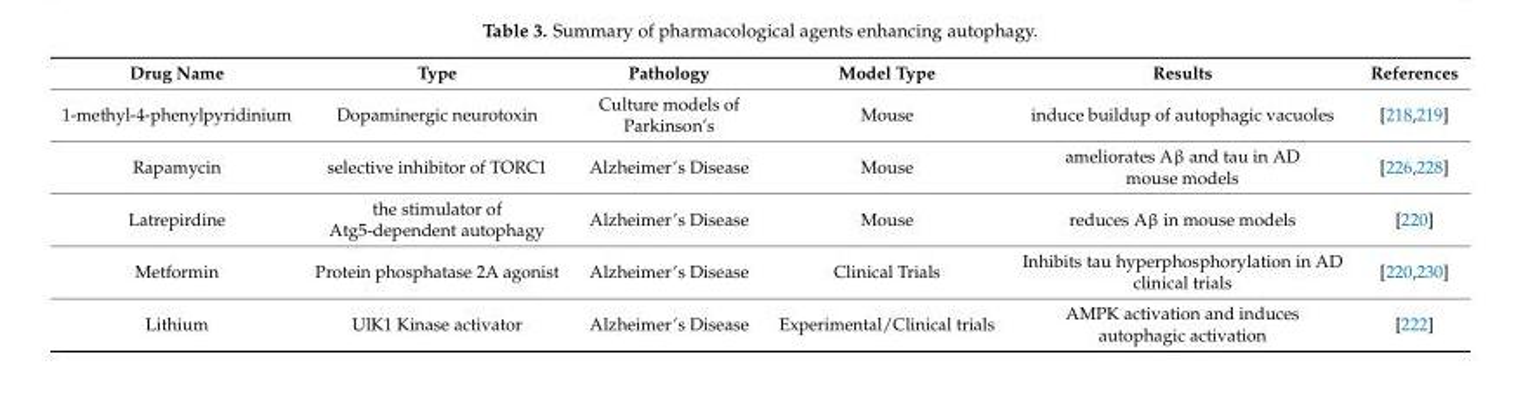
<table><thead><tr><td>Drug Name</td><td>Type</td><td>Pathology</td><td>Model Type</td><td>Results</td><td>References</td></tr></thead><tbody><tr><td>1-methyl-4-phenylpyridinium</td><td>Dopaminergic neurotoxin</td><td>Culture models of Parkinson’s</td><td>Mouse</td><td>induce buildup of autophagic vacuoles</td><td>[218,219]</td></tr><tr><td>Rapamycin</td><td>selective inhibitor of TORC1</td><td>Alzheimer’s Disease</td><td>Mouse</td><td>ameliorates Aβ and tau in AD mouse models</td><td>[226,228]</td></tr><tr><td>Latrepirdine</td><td>the stimulator of Atg5-dependent autophagy</td><td>Alzheimer’s Disease</td><td>Mouse</td><td>reduces Aβ in mouse models</td><td>[220]</td></tr><tr><td>Metformin</td><td>Protein phosphatase 2A agonist</td><td>Alzheimer’s Disease</td><td>Clinical Trials</td><td>Inhibits tau hyperphosphorylation in AD clinical trials</td><td>[220,230]</td></tr><tr><td>Lithium</td><td>UlK1 Kinase activator</td><td>Alzheimer’s Disease</td><td>Experimental/Clinical trials</td><td>AMPK activation and induces autophagic activation</td><td>[222]</td></tr></tbody></table>